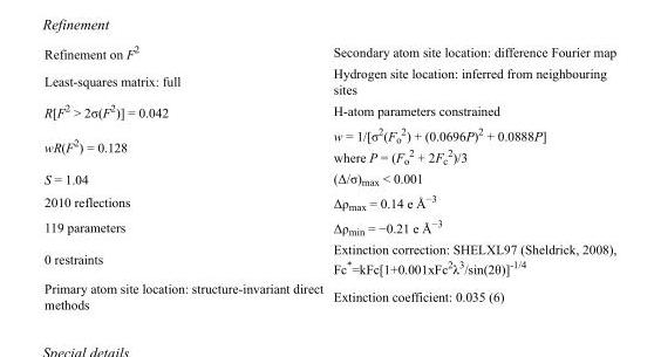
<table><tbody><tr><td>Refinement on F<sup>2</sup></td><td>Secondary atom site location: difference Fourier map</td></tr><tr><td>Least-squares matrix: full</td><td>Hydrogen site location: inferred from neighbouring sites</td></tr><tr><td>R[F<sup>2</sup> &gt; 2σ(F<sup>2</sup>)] = 0.042</td><td>H-atom parameters constrained</td></tr><tr><td>wR(F<sup>2</sup>) = 0.128</td><td>w = 1/[σ<sup>2</sup>(F<sub>o</sub> <sup>2</sup>) + (0.0696P)<sup>2</sup> + 0.0888P] where P = (F<sub>o</sub> <sup>2</sup> + 2F<sub>c</sub> <sup>2</sup>)/3</td></tr><tr><td>S = 1.04</td><td>(Δ/σ)<sub>max</sub> &lt; 0.001</td></tr><tr><td>2010 reflections</td><td>Δρ<sub>max</sub> = 0.14 e Å<sup>−3</sup></td></tr><tr><td>119 parameters</td><td>Δρ<sub>min</sub> = −0.21 e Å<sup>−3</sup></td></tr><tr><td>0 restraints</td><td>Extinction correction: SHELXL97 (Sheldrick, 2008), Fc*=kFc[1+0.001xFc<sup>2</sup>λ<sup>3</sup>/sin(2θ)]<sup>-1/4</sup></td></tr><tr><td>Primary atom site location: structure-invariant direct methods</td><td>Extinction coefficient: 0.035 (6)</td></tr></tbody></table>